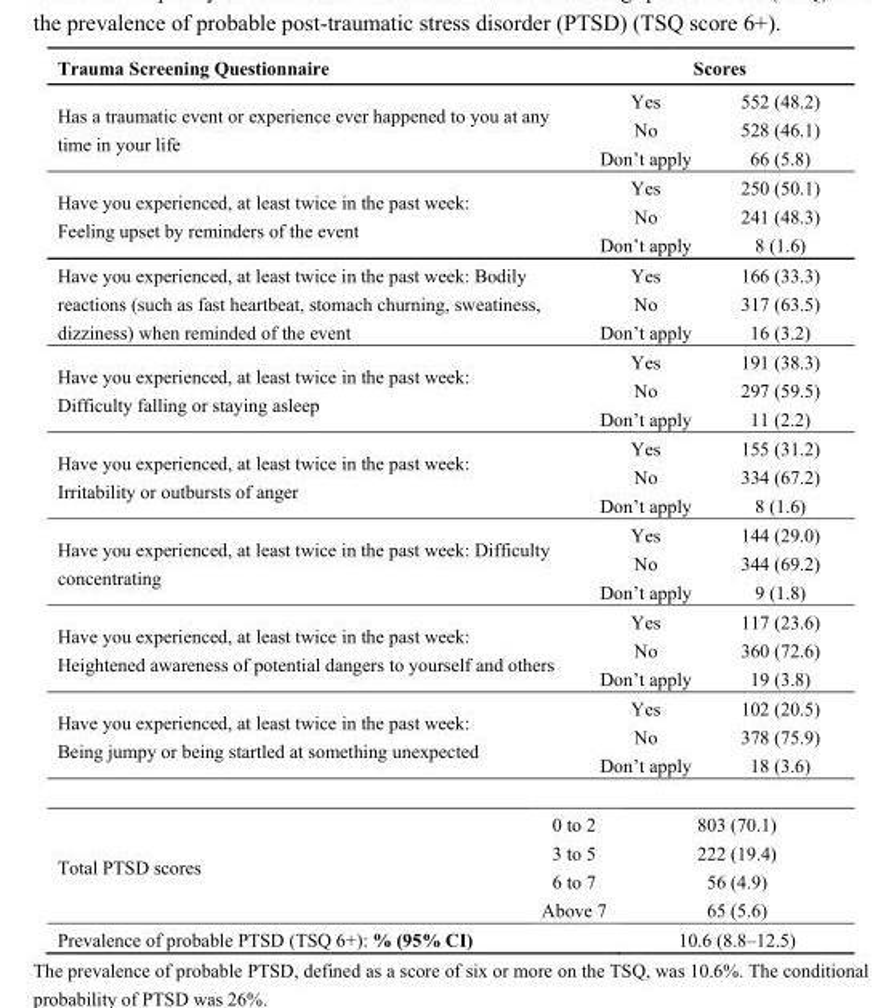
<table><thead><tr><td colspan="2">Trauma Screening Questionnaire</td><td colspan="3">Scores</td></tr></thead><tbody><tr><td rowspan="3" colspan="2">Has a traumatic event or experience ever happened to you at any time in your life</td><td colspan="2">Yes</td><td>552 (48.2)</td></tr><tr><td colspan="2">No</td><td>528 (46.1)</td></tr><tr><td colspan="2">Don’t apply</td><td>66 (5.8)</td></tr><tr><td rowspan="3" colspan="2">Have you experienced, at least twice in the past week: Feeling upset by reminders of the event</td><td colspan="2">Yes</td><td>250 (50.1)</td></tr><tr><td colspan="2">No</td><td>241 (48.3)</td></tr><tr><td colspan="2">Don’t apply</td><td>8 (1.6)</td></tr><tr><td rowspan="3" colspan="2">Have you experienced, at least twice in the past week: Bodily reactions (such as fast heartbeat, stomach churning, sweatiness, dizziness) when reminded of the event</td><td colspan="2">Yes</td><td>166 (33.3)</td></tr><tr><td colspan="2">No</td><td>317 (63.5)</td></tr><tr><td colspan="2">Don’t apply</td><td>16 (3.2)</td></tr><tr><td rowspan="3" colspan="2">Have you experienced, at least twice in the past week: Difficulty falling or staying asleep</td><td colspan="2">Yes</td><td>191 (38.3)</td></tr><tr><td colspan="2">No</td><td>297 (59.5)</td></tr><tr><td colspan="2">Don’t apply</td><td>11 (2.2)</td></tr><tr><td rowspan="3" colspan="2">Have you experienced, at least twice in the past week: Irritability or outbursts of anger</td><td colspan="2">Yes</td><td>155 (31.2)</td></tr><tr><td colspan="2">No</td><td>334 (67.2)</td></tr><tr><td colspan="2">Don’t apply</td><td>8 (1.6)</td></tr><tr><td rowspan="3" colspan="2">Have you experienced, at least twice in the past week: Difficulty concentrating</td><td colspan="2">Yes</td><td>144 (29.0)</td></tr><tr><td colspan="2">No</td><td>344 (69.2)</td></tr><tr><td colspan="2">Don’t apply</td><td>9 (1.8)</td></tr><tr><td rowspan="3" colspan="2">Have you experienced, at least twice in the past week: Heightened awareness of potential dangers to yourself and others</td><td colspan="2">Yes</td><td>117 (23.6)</td></tr><tr><td colspan="2">No</td><td>360 (72.6)</td></tr><tr><td colspan="2">Don’t apply</td><td>19 (3.8)</td></tr><tr><td rowspan="3" colspan="2">Have you experienced, at least twice in the past week: Being jumpy or being startled at something unexpected</td><td colspan="2">Yes</td><td>102 (20.5)</td></tr><tr><td colspan="2">No</td><td>378 (75.9)</td></tr><tr><td colspan="2">Don’t apply</td><td>18 (3.6)</td></tr><tr><td rowspan="4">Total PTSD scores</td><td colspan="2">0 to 2</td><td colspan="2">803 (70.1)</td></tr><tr><td colspan="2">3 to 5</td><td colspan="2">222 (19.4)</td></tr><tr><td colspan="2">6 to 7</td><td colspan="2">56 (4.9)</td></tr><tr><td colspan="2">Above 7</td><td colspan="2">65 (5.6)</td></tr><tr><td colspan="3">Prevalence of probable PTSD (TSQ 6+): % (95% CI)</td><td colspan="2">10.6 (8.8–12.5)</td></tr></tbody></table>